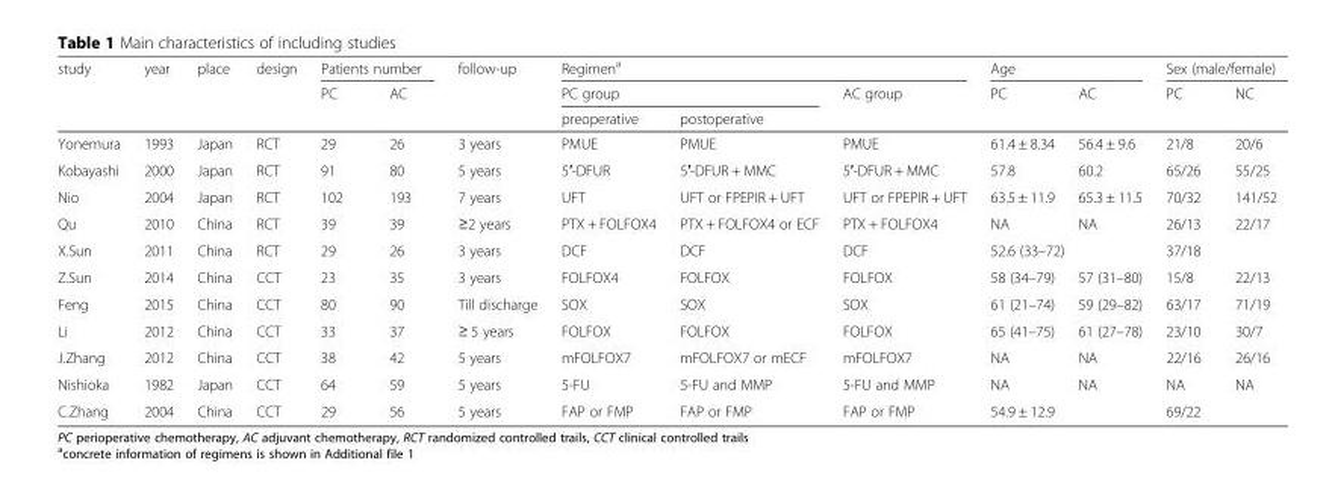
<table><thead><tr><td rowspan="3">study</td><td rowspan="3">year</td><td rowspan="3">place</td><td rowspan="3">design</td><td colspan="2">Patients number</td><td rowspan="3">follow-up</td><td colspan="3">Regimen<sup>a</sup></td><td colspan="2">Age</td><td colspan="2">Sex (male/female)</td></tr><tr><td rowspan="2">PC</td><td rowspan="2">AC</td><td colspan="2">PC group</td><td rowspan="2">AC group</td><td rowspan="2">PC</td><td rowspan="2">AC</td><td rowspan="2">PC</td><td rowspan="2">NC</td></tr><tr><td>preoperative</td><td>postoperative</td></tr></thead><tbody><tr><td>Yonemura</td><td>1993</td><td>Japan</td><td>RCT</td><td>29</td><td>26</td><td>3 years</td><td>PMUE</td><td>PMUE</td><td>PMUE</td><td>61.4 ± 8.34</td><td>56.4 ± 9.6</td><td>21/8</td><td>20/6</td></tr><tr><td>Kobayashi</td><td>2000</td><td>Japan</td><td>RCT</td><td>91</td><td>80</td><td>5 years</td><td>5′-DFUR</td><td>5′-DFUR + MMC</td><td>5′-DFUR + MMC</td><td>57.8</td><td>60.2</td><td>65/26</td><td>55/25</td></tr><tr><td>Nio</td><td>2004</td><td>Japan</td><td>RCT</td><td>102</td><td>193</td><td>7 years</td><td>UFT</td><td>UFT or FPEPIR + UFT</td><td>UFT or FPEPIR + UFT</td><td>63.5 ± 11.9</td><td>65.3 ± 11.5</td><td>70/32</td><td>141/52</td></tr><tr><td>Qu</td><td>2010</td><td>China</td><td>RCT</td><td>39</td><td>39</td><td>≥2 years</td><td>PTX + FOLFOX4</td><td>PTX + FOLFOX4 or ECF</td><td>PTX + FOLFOX4</td><td>NA</td><td>NA</td><td>26/13</td><td>22/17</td></tr><tr><td>X.Sun</td><td>2011</td><td>China</td><td>RCT</td><td>29</td><td>26</td><td>3 years</td><td>DCF</td><td>DCF</td><td>DCF</td><td colspan="2">52.6 (33–72)</td><td colspan="2">37/18</td></tr><tr><td>Z.Sun</td><td>2014</td><td>China</td><td>CCT</td><td>23</td><td>35</td><td>3 years</td><td>FOLFOX4</td><td>FOLFOX</td><td>FOLFOX</td><td>58 (34–79)</td><td>57 (31–80)</td><td>15/8</td><td>22/13</td></tr><tr><td>Feng</td><td>2015</td><td>China</td><td>CCT</td><td>80</td><td>90</td><td>Till discharge</td><td>SOX</td><td>SOX</td><td>SOX</td><td>61 (21–74)</td><td>59 (29–82)</td><td>63/17</td><td>71/19</td></tr><tr><td>Li</td><td>2012</td><td>China</td><td>CCT</td><td>33</td><td>37</td><td>≥ 5 years</td><td>FOLFOX</td><td>FOLFOX</td><td>FOLFOX</td><td>65 (41–75)</td><td>61 (27–78)</td><td>23/10</td><td>30/7</td></tr><tr><td>J.Zhang</td><td>2012</td><td>China</td><td>CCT</td><td>38</td><td>42</td><td>5 years</td><td>mFOLFOX7</td><td>mFOLFOX7 or mECF</td><td>mFOLFOX7</td><td>NA</td><td>NA</td><td>22/16</td><td>26/16</td></tr><tr><td>Nishioka</td><td>1982</td><td>Japan</td><td>CCT</td><td>64</td><td>59</td><td>5 years</td><td>5-FU</td><td>5-FU and MMP</td><td>5-FU and MMP</td><td>NA</td><td>NA</td><td>NA</td><td>NA</td></tr><tr><td>C.Zhang</td><td>2004</td><td>China</td><td>CCT</td><td>29</td><td>56</td><td>5 years</td><td>FAP or FMP</td><td>FAP or FMP</td><td>FAP or FMP</td><td colspan="2">54.9 ± 12.9</td><td colspan="2">69/22</td></tr></tbody></table>